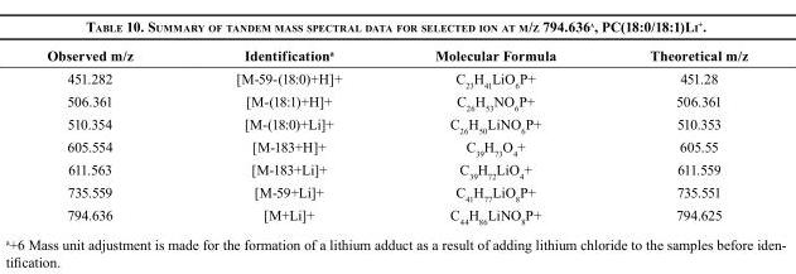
<table><thead><tr><td>Observed m/z</td><td>Identification<sup>a</sup></td><td>Molecular Formula</td><td>Theoretical m/z</td></tr></thead><tbody><tr><td>451.282</td><td>[M-59-(18:0)+H]+</td><td>C<sub>23</sub>H<sub>41</sub>LiO<sub>6</sub>P+</td><td>451.28</td></tr><tr><td>506.361</td><td>[M-(18:1)+H]+</td><td>C<sub>26</sub>H<sub>53</sub>NO<sub>6</sub>P+</td><td>506.361</td></tr><tr><td>510.354</td><td>[M-(18:0)+Li]+</td><td>C<sub>26</sub>H<sub>50</sub>LiNO<sub>6</sub>P+</td><td>510.353</td></tr><tr><td>605.554</td><td>[M-183+H]+</td><td>C<sub>39</sub>H<sub>73</sub>O<sub>4</sub>+</td><td>605.55</td></tr><tr><td>611.563</td><td>[M-183+Li]+</td><td>C<sub>39</sub>H<sub>72</sub>LiO<sub>4</sub>+</td><td>611.559</td></tr><tr><td>735.559</td><td>[M-59+Li]+</td><td>C<sub>41</sub>H<sub>77</sub>LiO<sub>8</sub>P+</td><td>735.551</td></tr><tr><td>794.636</td><td>[M+Li]+</td><td>C<sub>44</sub>H<sub>86</sub>LiNO<sub>8</sub>P+</td><td>794.625</td></tr></tbody></table>